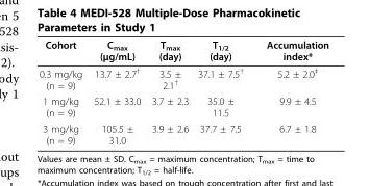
<table><thead><tr><td>Cohort</td><td>C<sub>max</sub> (μg/mL)</td><td>T<sub>max</sub> (day)</td><td>T<sub>1/2</sub> (day)</td><td>Accumulation index*</td></tr></thead><tbody><tr><td>0.3 mg/kg (n = 9)</td><td>13.7 ± 2.7<sup>†</sup></td><td>3.5 ± 2.1<sup>†</sup></td><td>37.1 ± 7.5<sup>†</sup></td><td>5.2 ± 2.0<sup>‡</sup></td></tr><tr><td>1 mg/kg (n = 9)</td><td>52.1 ± 33.0</td><td>3.7 ± 2.3</td><td>35.0 ± 11.5</td><td>9.9 ± 4.5</td></tr><tr><td>3 mg/kg (n = 9)</td><td>105.5 ± 31.0</td><td>3.9 ± 2.6</td><td>37.7 ± 7.5</td><td>6.7 ± 1.8</td></tr></tbody></table>